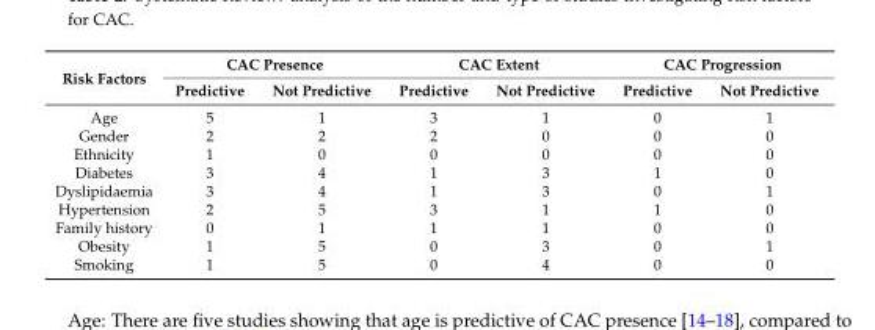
<table><thead><tr><td rowspan="2">Risk Factors</td><td colspan="2">CAC Presence</td><td colspan="2">CAC Extent</td><td colspan="2">CAC Progression</td></tr><tr><td>Predictive</td><td>Not Predictive</td><td>Predictive</td><td>Not Predictive</td><td>Predictive</td><td>Not Predictive</td></tr></thead><tbody><tr><td>Age</td><td>5</td><td>1</td><td>3</td><td>1</td><td>0</td><td>1</td></tr><tr><td>Gender</td><td>2</td><td>2</td><td>2</td><td>0</td><td>0</td><td>0</td></tr><tr><td>Ethnicity</td><td>1</td><td>0</td><td>0</td><td>0</td><td>0</td><td>0</td></tr><tr><td>Diabetes</td><td>3</td><td>4</td><td>1</td><td>3</td><td>1</td><td>0</td></tr><tr><td>Dyslipidaemia</td><td>3</td><td>4</td><td>1</td><td>3</td><td>0</td><td>1</td></tr><tr><td>Hypertension</td><td>2</td><td>5</td><td>3</td><td>1</td><td>1</td><td>0</td></tr><tr><td>Family history</td><td>0</td><td>1</td><td>1</td><td>1</td><td>0</td><td>0</td></tr><tr><td>Obesity</td><td>1</td><td>5</td><td>0</td><td>3</td><td>0</td><td>1</td></tr><tr><td>Smoking</td><td>1</td><td>5</td><td>0</td><td>4</td><td>0</td><td>0</td></tr></tbody></table>